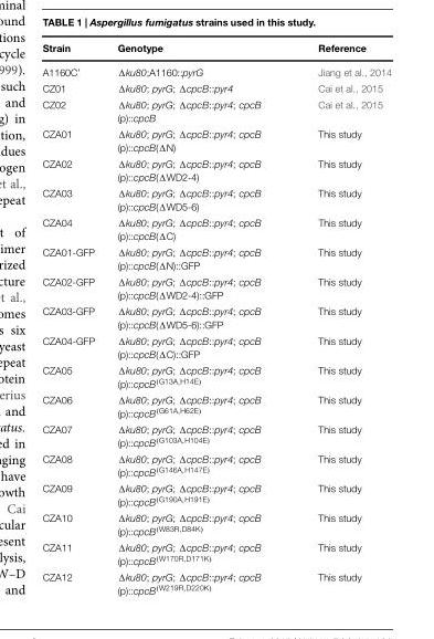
<table><thead><tr><td>Strain</td><td>Genotype</td><td>Reference</td></tr></thead><tbody><tr><td>A1160C’</td><td>Δku80;A1160::pyrG</td><td>Jiang et al., 2014</td></tr><tr><td>CZ01</td><td>Δku80; pyrG; ΔcpcB::pyr4</td><td>Cai et al., 2015</td></tr><tr><td>CZ02</td><td>Δku80; pyrG; ΔcpcB::pyr4; cpcB (p)::cpcB</td><td>Cai et al., 2015</td></tr><tr><td>CZA01</td><td>Δku80; pyrG; ΔcpcB::pyr4; cpcB (p)::cpcB(ΔN)</td><td>This study</td></tr><tr><td>CZA02</td><td>Δku80; pyrG; ΔcpcB::pyr4; cpcB (p)::cpcB(ΔWD2-4)</td><td>This study</td></tr><tr><td>CZA03</td><td>Δku80; pyrG; ΔcpcB::pyr4; cpcB (p)::cpcB(ΔWD5-6)</td><td>This study</td></tr><tr><td>CZA04</td><td>Δku80; pyrG; ΔcpcB::pyr4; cpcB (p)::cpcB(ΔC)</td><td>This study</td></tr><tr><td>CZA01-GFP</td><td>Δku80; pyrG; ΔcpcB::pyr4; cpcB (p)::cpcB(ΔN)::GFP</td><td>This study</td></tr><tr><td>CZA02-GFP</td><td>Δku80; pyrG; ΔcpcB::pyr4; cpcB (p)::cpcB(ΔWD2-4)::GFP</td><td>This study</td></tr><tr><td>CZA03-GFP</td><td>Δku80; pyrG; ΔcpcB::pyr4; cpcB (p)::cpcB(ΔWD5-6)::GFP</td><td>This study</td></tr><tr><td>CZA04-GFP</td><td>Δku80; pyrG; ΔcpcB::pyr4; cpcB (p)::cpcB(ΔC)::GFP</td><td>This study</td></tr><tr><td>CZA05</td><td>Δku80; pyrG; ΔcpcB::pyr4; cpcB (p)::cpcB<sup>(G13A,H14E)</sup></td><td>This study</td></tr><tr><td>CZA06</td><td>Δku80; pyrG; ΔcpcB::pyr4; cpcB (p)::cpcB<sup>(G61A,H62E)</sup></td><td>This study</td></tr><tr><td>CZA07</td><td>Δku80; pyrG; ΔcpcB::pyr4; cpcB (p)::cpcB<sup>(G103A,H104E)</sup></td><td>This study</td></tr><tr><td>CZA08</td><td>Δku80; pyrG; ΔcpcB::pyr4; cpcB (p)::cpcB<sup>(G146A,H147E)</sup></td><td>This study</td></tr><tr><td>CZA09</td><td>Δku80; pyrG; ΔcpcB::pyr4; cpcB (p)::cpcB<sup>(G190A,H191E)</sup></td><td>This study</td></tr><tr><td>CZA10</td><td>Δku80; pyrG; ΔcpcB::pyr4; cpcB (p)::cpcB<sup>(W83R,D84K)</sup></td><td>This study</td></tr><tr><td>CZA11</td><td>Δku80; pyrG; ΔcpcB::pyr4; cpcB (p)::cpcB<sup>(W170R,D171K)</sup></td><td>This study</td></tr><tr><td>CZA12</td><td>Δku80; pyrG; ΔcpcB::pyr4; cpcB (p)::cpcB<sup>(W219R,D220K)</sup></td><td>This study</td></tr></tbody></table>